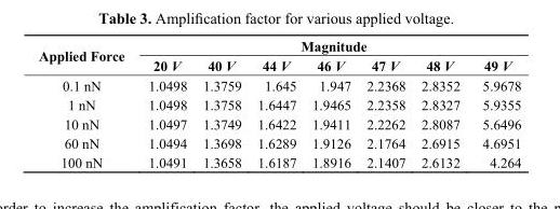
<table><thead><tr><td rowspan="2">Applied Force</td><td colspan="7">Magnitude</td></tr><tr><td>20 V</td><td>40 V</td><td>44 V</td><td>46 V</td><td>47 V</td><td>48 V</td><td>49 V</td></tr></thead><tbody><tr><td>0.1 nN</td><td>1.0498</td><td>1.3759</td><td>1.645</td><td>1.947</td><td>2.2368</td><td>2.8352</td><td>5.9678</td></tr><tr><td>1 nN</td><td>1.0498</td><td>1.3758</td><td>1.6447</td><td>1.9465</td><td>2.2358</td><td>2.8327</td><td>5.9355</td></tr><tr><td>10 nN</td><td>1.0497</td><td>1.3749</td><td>1.6422</td><td>1.9411</td><td>2.2262</td><td>2.8087</td><td>5.6496</td></tr><tr><td>60 nN</td><td>1.0494</td><td>1.3698</td><td>1.6289</td><td>1.9126</td><td>2.1764</td><td>2.6915</td><td>4.6951</td></tr><tr><td>100 nN</td><td>1.0491</td><td>1.3658</td><td>1.6187</td><td>1.8916</td><td>2.1407</td><td>2.6132</td><td>4.264</td></tr></tbody></table>